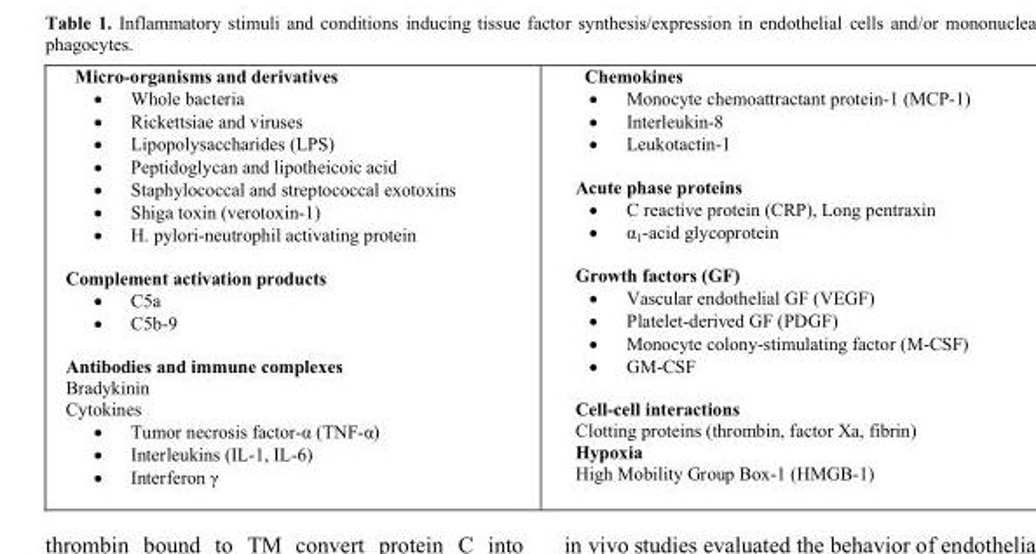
<table><tbody><tr><td>Micro-organisms and derivatives  Whole bacteria  Rickettsiae and viruses  Lipopolysaccharides (LPS)  Peptidoglycan and lipotheicoic acid  Staphylococcal and streptococcal exotoxins  Shiga toxin (verotoxin-1)  H. pylori-neutrophil activating protein Complement activation products  C5a  C5b-9 Antibodies and immune complexes Bradykinin Cytokines  Tumor necrosis factor-α (TNF-α)  Interleukins (IL-1, IL-6)  Interferon γ</td><td>Chemokines  Monocyte chemoattractant protein-1 (MCP-1)  Interleukin-8  Leukotactin-1 Acute phase proteins  C reactive protein (CRP), Long pentraxin  α1-acid glycoprotein Growth factors (GF)  Vascular endothelial GF (VEGF)  Platelet-derived GF (PDGF)  Monocyte colony-stimulating factor (M-CSF)  GM-CSF Cell-cell interactions Clotting proteins (thrombin, factor Xa, fibrin) Hypoxia High Mobility Group Box-1 (HMGB-1)</td></tr></tbody></table>